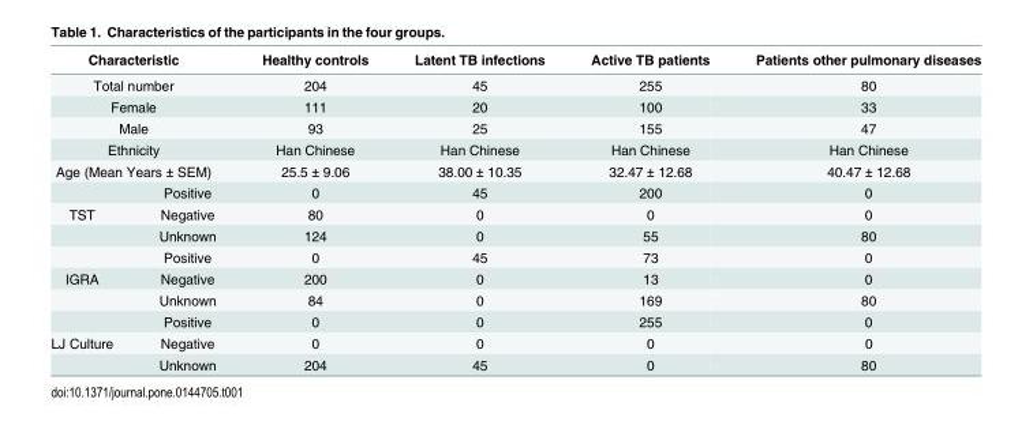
<table><thead><tr><td colspan="2">Characteristic</td><td>Healthy controls</td><td>Latent TB infections</td><td>Active TB patients</td><td>Patients other pulmonary diseases</td></tr></thead><tbody><tr><td colspan="2">Total number</td><td>204</td><td>45</td><td>255</td><td>80</td></tr><tr><td colspan="2">Female</td><td>111</td><td>20</td><td>100</td><td>33</td></tr><tr><td colspan="2">Male</td><td>93</td><td>25</td><td>155</td><td>47</td></tr><tr><td colspan="2">Ethnicity</td><td>Han Chinese</td><td>Han Chinese</td><td>Han Chinese</td><td>Han Chinese</td></tr><tr><td colspan="2">Age (Mean Years ± SEM)</td><td>25.5 ± 9.06</td><td>38.00 ± 10.35</td><td>32.47 ± 12.68</td><td>40.47 ± 12.68</td></tr><tr><td></td><td>Positive</td><td>0</td><td>45</td><td>200</td><td>0</td></tr><tr><td rowspan="3">TST</td><td>Negative</td><td>80</td><td>0</td><td>0</td><td>0</td></tr><tr><td>Unknown</td><td>124</td><td>0</td><td>55</td><td>80</td></tr><tr><td>Positive</td><td>0</td><td>45</td><td>73</td><td>0</td></tr><tr><td rowspan="3">IGRA</td><td>Negative</td><td>200</td><td>0</td><td>13</td><td>0</td></tr><tr><td>Unknown</td><td>84</td><td>0</td><td>169</td><td>80</td></tr><tr><td>Positive</td><td>0</td><td>0</td><td>255</td><td>0</td></tr><tr><td rowspan="2">LJ Culture</td><td>Negative</td><td>0</td><td>0</td><td>0</td><td>0</td></tr><tr><td>Unknown</td><td>204</td><td>45</td><td>0</td><td>80</td></tr></tbody></table>